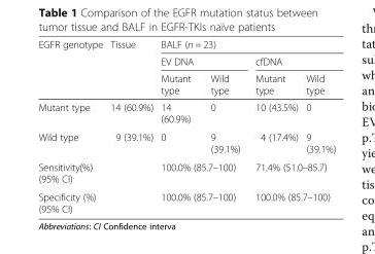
<table><thead><tr><td rowspan="3">EGFR genotype</td><td rowspan="3">Tissue</td><td colspan="4">BALF (n = 23)</td></tr><tr><td colspan="2">EV DNA</td><td colspan="2">cfDNA</td></tr><tr><td>Mutant type</td><td>Wild type</td><td>Mutant type</td><td>Wild type</td></tr></thead><tbody><tr><td>Mutant type</td><td>14 (60.9%)</td><td>14 (60.9%)</td><td>0</td><td>10 (43.5%)</td><td>0</td></tr><tr><td>Wild type</td><td>9 (39.1%)</td><td>0</td><td>9 (39.1%)</td><td>4 (17.4%)</td><td>9 (39.1%)</td></tr><tr><td colspan="2">Sensitivity(%) (95% CI)</td><td colspan="2">100.0% (85.7–100)</td><td colspan="2">71.4% (51.0–85.7)</td></tr><tr><td colspan="2">Specificity (%) (95% CI)</td><td colspan="2">100.0% (85.7–100)</td><td colspan="2">100.0% (85.7–100)</td></tr></tbody></table>